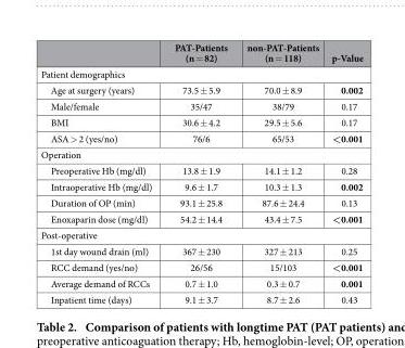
<table><thead><tr><td></td><td>PAT-Patients (n = 82)</td><td>non-PAT-Patients (n = 118)</td><td>p-Value</td></tr></thead><tbody><tr><td colspan="4">Patient demographics</td></tr><tr><td>Age at surgery (years)</td><td>73.5 ± 5.9</td><td>70.0 ± 8.9</td><td>0.002</td></tr><tr><td>Male/female</td><td>35/47</td><td>38/79</td><td>0.17</td></tr><tr><td>BMI</td><td>30.6 ± 4.2</td><td>29.5 ± 5.6</td><td>0.17</td></tr><tr><td>ASA &gt; 2 (yes/no)</td><td>76/6</td><td>65/53</td><td>&lt;0.001</td></tr><tr><td colspan="4">Operation</td></tr><tr><td>Preoperative Hb (mg/dl)</td><td>13.8 ± 1.9</td><td>14.1 ± 1.2</td><td>0.28</td></tr><tr><td>Intraoperative Hb (mg/dl)</td><td>9.6 ± 1.7</td><td>10.3 ± 1.3</td><td>0.002</td></tr><tr><td>Duration of OP (min)</td><td>93.1 ± 25.8</td><td>87.6 ± 24.4</td><td>0.13</td></tr><tr><td>Enoxaparin dose (mg/dl)</td><td>54.2 ± 14.4</td><td>43.4 ± 7.5</td><td>&lt;0.001</td></tr><tr><td colspan="4">Post-operative</td></tr><tr><td>1st day wound drain (ml)</td><td>367 ± 230</td><td>327 ± 213</td><td>0.25</td></tr><tr><td>RCC demand (yes/no)</td><td>26/56</td><td>15/103</td><td>&lt;0.001</td></tr><tr><td>Average demand of RCCs</td><td>0.7 ± 1.0</td><td>0.3 ± 0.7</td><td>0.001</td></tr><tr><td>Inpatient time (days)</td><td>9.1 ± 3.7</td><td>8.7 ± 2.6</td><td>0.43</td></tr></tbody></table>